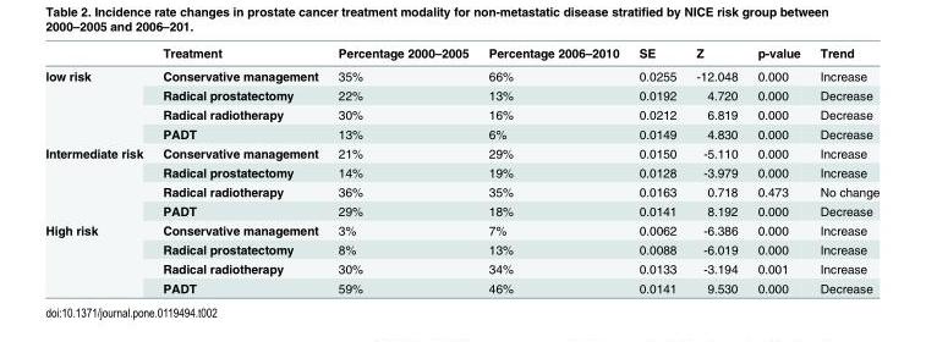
<table><thead><tr><td></td><td>Treatment</td><td>Percentage 2000–2005</td><td>Percentage 2006–2010</td><td>SE</td><td>Z</td><td>p-value</td><td>Trend</td></tr></thead><tbody><tr><td rowspan="4">low risk</td><td>Conservative management</td><td>35%</td><td>66%</td><td>0.0255</td><td>-12.048</td><td>0.000</td><td>Increase</td></tr><tr><td>Radical prostatectomy</td><td>22%</td><td>13%</td><td>0.0192</td><td>4.720</td><td>0.000</td><td>Decrease</td></tr><tr><td>Radical radiotherapy</td><td>30%</td><td>16%</td><td>0.0212</td><td>6.819</td><td>0.000</td><td>Decrease</td></tr><tr><td>PADT</td><td>13%</td><td>6%</td><td>0.0149</td><td>4.830</td><td>0.000</td><td>Decrease</td></tr><tr><td rowspan="4">Intermediate risk</td><td>Conservative management</td><td>21%</td><td>29%</td><td>0.0150</td><td>-5.110</td><td>0.000</td><td>Increase</td></tr><tr><td>Radical prostatectomy</td><td>14%</td><td>19%</td><td>0.0128</td><td>-3.979</td><td>0.000</td><td>Increase</td></tr><tr><td>Radical radiotherapy</td><td>36%</td><td>35%</td><td>0.0163</td><td>0.718</td><td>0.473</td><td>No change</td></tr><tr><td>PADT</td><td>29%</td><td>18%</td><td>0.0141</td><td>8.192</td><td>0.000</td><td>Decrease</td></tr><tr><td rowspan="4">High risk</td><td>Conservative management</td><td>3%</td><td>7%</td><td>0.0062</td><td>-6.386</td><td>0.000</td><td>Increase</td></tr><tr><td>Radical prostatectomy</td><td>8%</td><td>13%</td><td>0.0088</td><td>-6.019</td><td>0.000</td><td>Increase</td></tr><tr><td>Radical radiotherapy</td><td>30%</td><td>34%</td><td>0.0133</td><td>-3.194</td><td>0.001</td><td>Increase</td></tr><tr><td>PADT</td><td>59%</td><td>46%</td><td>0.0141</td><td>9.530</td><td>0.000</td><td>Decrease</td></tr></tbody></table>